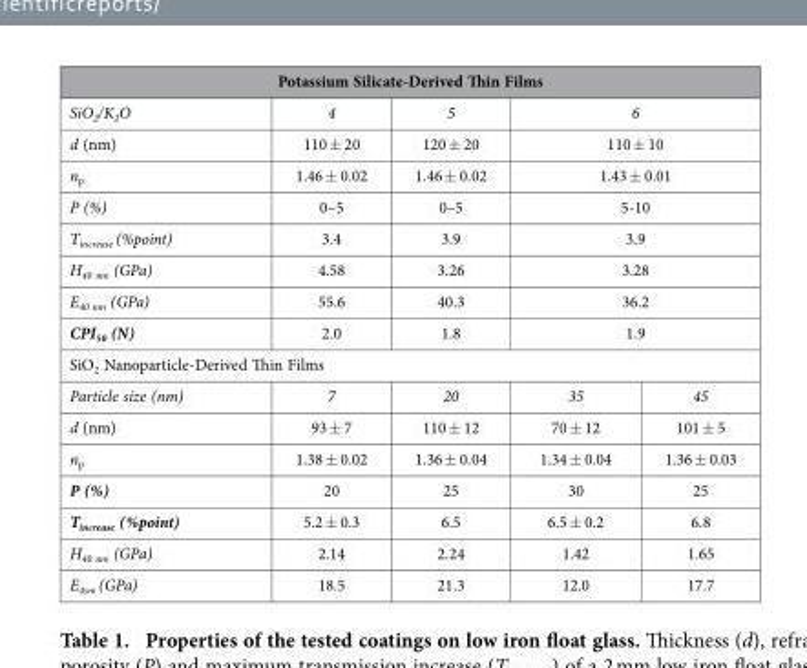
<table><thead><tr><td colspan="5">Potassium Silicate-Derived Thin Films</td></tr></thead><tbody><tr><td>SiO<sub>2</sub>/K<sub>2</sub>O</td><td>4</td><td>5</td><td colspan="2">6</td></tr><tr><td>d (nm)</td><td>110 ± 20</td><td>120 ± 20</td><td colspan="2">110 ± 10</td></tr><tr><td>n<sub>p</sub></td><td>1.46 ± 0.02</td><td>1.46 ± 0.02</td><td colspan="2">1.43 ± 0.01</td></tr><tr><td>P (%)</td><td>0–5</td><td>0–5</td><td colspan="2">5-10</td></tr><tr><td>T<sub>increase</sub> (%point)</td><td>3.4</td><td>3.9</td><td colspan="2">3.9</td></tr><tr><td>H<sub>40 nm</sub> (GPa)</td><td>4.58</td><td>3.26</td><td colspan="2">3.28</td></tr><tr><td>E<sub>40 nm</sub> (GPa)</td><td>55.6</td><td>40.3</td><td colspan="2">36.2</td></tr><tr><td>CPI<sub>50</sub> (N)</td><td>2.0</td><td>1.8</td><td colspan="2">1.9</td></tr><tr><td colspan="5">SiO<sub>2</sub> Nanoparticle-Derived Thin Films</td></tr><tr><td>Particle size (nm)</td><td>7</td><td>20</td><td>35</td><td>45</td></tr><tr><td>d (nm)</td><td>93 ± 7</td><td>110 ± 12</td><td>70 ± 12</td><td>101 ± 5</td></tr><tr><td>n<sub>p</sub></td><td>1.38 ± 0.02</td><td>1.36 ± 0.04</td><td>1.34 ± 0.04</td><td>1.36 ± 0.03</td></tr><tr><td>P (%)</td><td>20</td><td>25</td><td>30</td><td>25</td></tr><tr><td>T<sub>increase</sub> (%point)</td><td>5.2 ± 0.3</td><td>6.5</td><td>6.5 ± 0.2</td><td>6.8</td></tr><tr><td>H<sub>40 nm</sub> (GPa)</td><td>2.14</td><td>2.24</td><td>1.42</td><td>1.65</td></tr><tr><td>E<sub>4sm</sub> (GPa)</td><td>18.5</td><td>21.3</td><td>12.0</td><td>17.7</td></tr></tbody></table>